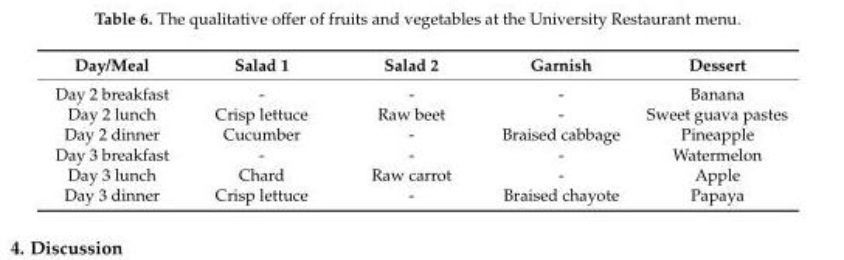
<table><thead><tr><td>Day/Meal</td><td>Salad 1</td><td>Salad 2</td><td>Garnish</td><td>Dessert</td></tr></thead><tbody><tr><td>Day 2 breakfast</td><td>-</td><td>-</td><td>-</td><td>Banana</td></tr><tr><td>Day 2 lunch</td><td>Crisp lettuce</td><td>Raw beet</td><td>-</td><td>Sweet guava pastes</td></tr><tr><td>Day 2 dinner</td><td>Cucumber</td><td>-</td><td>Braised cabbage</td><td>Pineapple</td></tr><tr><td>Day 3 breakfast</td><td>-</td><td>-</td><td>-</td><td>Watermelon</td></tr><tr><td>Day 3 lunch</td><td>Chard</td><td>Raw carrot</td><td>-</td><td>Apple</td></tr><tr><td>Day 3 dinner</td><td>Crisp lettuce</td><td>-</td><td>Braised chayote</td><td>Papaya</td></tr></tbody></table>